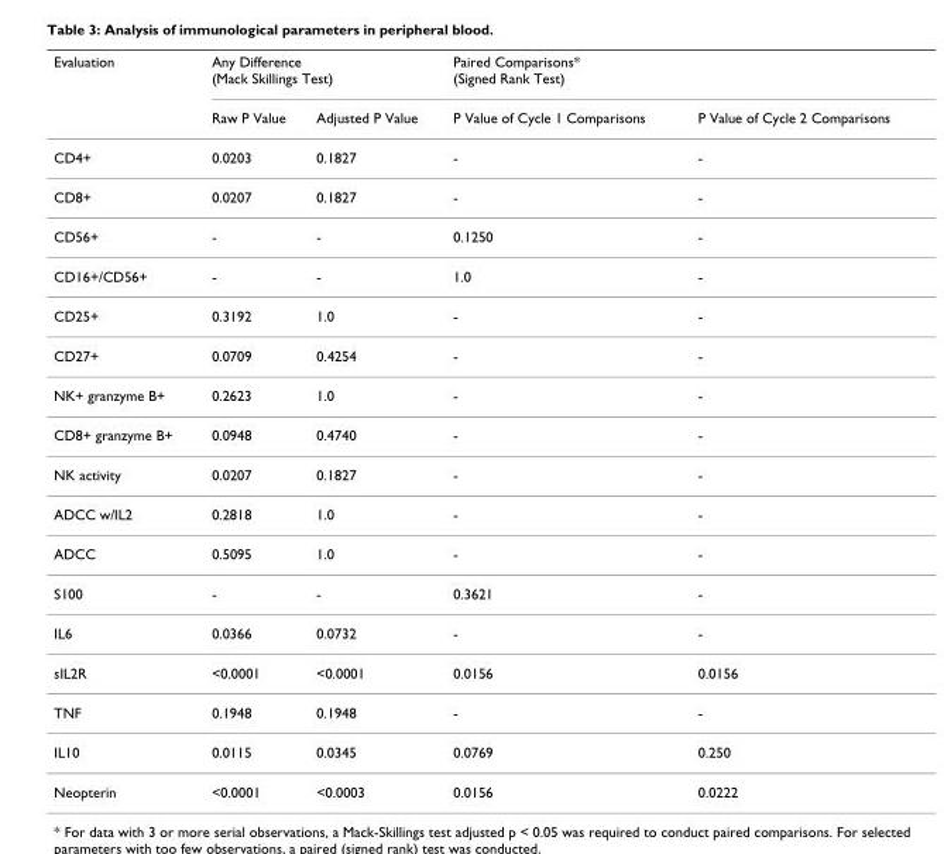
<table><thead><tr><td rowspan="2">Evaluation</td><td colspan="2">Any Difference (Mack Skillings Test)</td><td colspan="2">Paired Comparisons* (Signed Rank Test)</td></tr><tr><td>Raw P Value</td><td>Adjusted P Value</td><td>P Value of Cycle 1 Comparisons</td><td>P Value of Cycle 2 Comparisons</td></tr></thead><tbody><tr><td>CD4+</td><td>0.0203</td><td>0.1827</td><td>-</td><td>-</td></tr><tr><td>CD8+</td><td>0.0207</td><td>0.1827</td><td>-</td><td>-</td></tr><tr><td>CD56+</td><td>-</td><td>-</td><td>0.1250</td><td>-</td></tr><tr><td>CD16+/CD56+</td><td>-</td><td>-</td><td>1.0</td><td>-</td></tr><tr><td>CD25+</td><td>0.3192</td><td>1.0</td><td>-</td><td>-</td></tr><tr><td>CD27+</td><td>0.0709</td><td>0.4254</td><td>-</td><td>-</td></tr><tr><td>NK+ granzyme B+</td><td>0.2623</td><td>1.0</td><td>-</td><td>-</td></tr><tr><td>CD8+ granzyme B+</td><td>0.0948</td><td>0.4740</td><td>-</td><td>-</td></tr><tr><td>NK activity</td><td>0.0207</td><td>0.1827</td><td>-</td><td>-</td></tr><tr><td>ADCC w/IL2</td><td>0.2818</td><td>1.0</td><td>-</td><td>-</td></tr><tr><td>ADCC</td><td>0.5095</td><td>1.0</td><td>-</td><td>-</td></tr><tr><td>S100</td><td>-</td><td>-</td><td>0.3621</td><td>-</td></tr><tr><td>IL6</td><td>0.0366</td><td>0.0732</td><td>-</td><td>-</td></tr><tr><td>sIL2R</td><td>&lt;0.0001</td><td>&lt;0.0001</td><td>0.0156</td><td>0.0156</td></tr><tr><td>TNF</td><td>0.1948</td><td>0.1948</td><td>-</td><td>-</td></tr><tr><td>IL10</td><td>0.0115</td><td>0.0345</td><td>0.0769</td><td>0.250</td></tr><tr><td>Neopterin</td><td>&lt;0.0001</td><td>&lt;0.0003</td><td>0.0156</td><td>0.0222</td></tr></tbody></table>